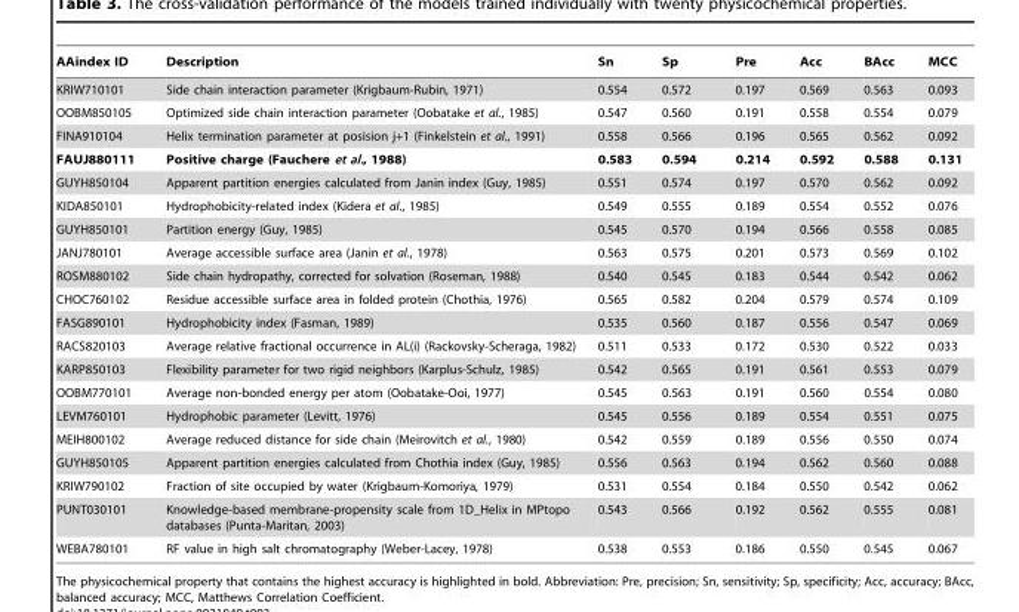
<table><thead><tr><td>AAindex ID</td><td>Description</td><td>Sn</td><td>Sp</td><td>Pre</td><td>Acc</td><td>BAcc</td><td>MCC</td></tr></thead><tbody><tr><td>KRIW710101</td><td>Side chain interaction parameter (Krigbaum-Rubin, 1971)</td><td>0.554</td><td>0.572</td><td>0.197</td><td>0.569</td><td>0.563</td><td>0.093</td></tr><tr><td>OOBM850105</td><td>Optimized side chain interaction parameter (Oobatake et al., 1985)</td><td>0.547</td><td>0.560</td><td>0.191</td><td>0.558</td><td>0.554</td><td>0.079</td></tr><tr><td>FINA910104</td><td>Helix termination parameter at posision j+1 (Finkelstein et al., 1991)</td><td>0.558</td><td>0.566</td><td>0.196</td><td>0.565</td><td>0.562</td><td>0.092</td></tr><tr><td>FAUJ880111</td><td>Positive charge (Fauchere et al., 1988)</td><td>0.583</td><td>0.594</td><td>0.214</td><td>0.592</td><td>0.588</td><td>0.131</td></tr><tr><td>GUYH850104</td><td>Apparent partition energies calculated from Janin index (Guy, 1985)</td><td>0.551</td><td>0.574</td><td>0.197</td><td>0.570</td><td>0.562</td><td>0.092</td></tr><tr><td>KIDA850101</td><td>Hydrophobicity-related index (Kidera et al., 1985)</td><td>0.549</td><td>0.555</td><td>0.189</td><td>0.554</td><td>0.552</td><td>0.076</td></tr><tr><td>GUYH850101</td><td>Partition energy (Guy, 1985)</td><td>0.545</td><td>0.570</td><td>0.194</td><td>0.566</td><td>0.558</td><td>0.085</td></tr><tr><td>JANJ780101</td><td>Average accessible surface area (Janin et al., 1978)</td><td>0.563</td><td>0.575</td><td>0.201</td><td>0.573</td><td>0.569</td><td>0.102</td></tr><tr><td>ROSM880102</td><td>Side chain hydropathy, corrected for solvation (Roseman, 1988)</td><td>0.540</td><td>0.545</td><td>0.183</td><td>0.544</td><td>0.542</td><td>0.062</td></tr><tr><td>CHOC760102</td><td>Residue accessible surface area in folded protein (Chothia, 1976)</td><td>0.565</td><td>0.582</td><td>0.204</td><td>0.579</td><td>0.574</td><td>0.109</td></tr><tr><td>FASG890101</td><td>Hydrophobicity index (Fasman, 1989)</td><td>0.535</td><td>0.560</td><td>0.187</td><td>0.556</td><td>0.547</td><td>0.069</td></tr><tr><td>RACS820103</td><td>Average relative fractional occurrence in AL(i) (Rackovsky-Scheraga, 1982)</td><td>0.511</td><td>0.533</td><td>0.172</td><td>0.530</td><td>0.522</td><td>0.033</td></tr><tr><td>KARP850103</td><td>Flexibility parameter for two rigid neighbors (Karplus-Schulz, 1985)</td><td>0.542</td><td>0.565</td><td>0.191</td><td>0.561</td><td>0.553</td><td>0.079</td></tr><tr><td>OOBM770101</td><td>Average non-bonded energy per atom (Oobatake-Ooi, 1977)</td><td>0.545</td><td>0.563</td><td>0.191</td><td>0.560</td><td>0.554</td><td>0.080</td></tr><tr><td>LEVM760101</td><td>Hydrophobic parameter (Levitt, 1976)</td><td>0.545</td><td>0.556</td><td>0.189</td><td>0.554</td><td>0.551</td><td>0.075</td></tr><tr><td>MEIH800102</td><td>Average reduced distance for side chain (Meirovitch et al., 1980)</td><td>0.542</td><td>0.559</td><td>0.189</td><td>0.556</td><td>0.550</td><td>0.074</td></tr><tr><td>GUYH850105</td><td>Apparent partition energies calculated from Chothia index (Guy, 1985)</td><td>0.556</td><td>0.563</td><td>0.194</td><td>0.562</td><td>0.560</td><td>0.088</td></tr><tr><td>KRIW790102</td><td>Fraction of site occupied by water (Krigbaum-Komoriya, 1979)</td><td>0.531</td><td>0.554</td><td>0.184</td><td>0.550</td><td>0.542</td><td>0.062</td></tr><tr><td>PUNT030101</td><td>Knowledge-based membrane-propensity scale from 1D_Helix in MPtopo databases (Punta-Maritan, 2003)</td><td>0.543</td><td>0.566</td><td>0.192</td><td>0.562</td><td>0.555</td><td>0.081</td></tr><tr><td>WEBA780101</td><td>RF value in high salt chromatography (Weber-Lacey, 1978)</td><td>0.538</td><td>0.553</td><td>0.186</td><td>0.550</td><td>0.545</td><td>0.067</td></tr></tbody></table>